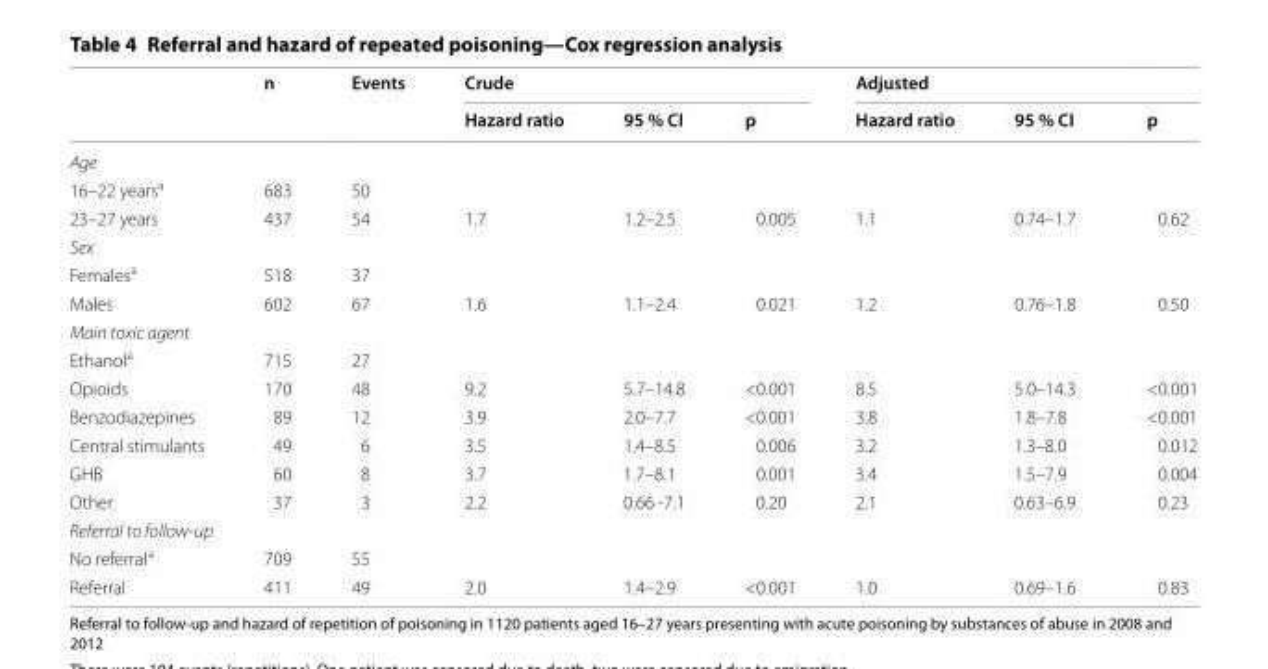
<table><thead><tr><td rowspan="2"></td><td rowspan="2">n</td><td rowspan="2">Events</td><td colspan="3">Crude</td><td colspan="3">Adjusted</td></tr><tr><td>Hazard ratio</td><td>95 % CI</td><td>p</td><td>Hazard ratio</td><td>95 % CI</td><td>p</td></tr></thead><tbody><tr><td colspan="9">Age</td></tr><tr><td>16–22 years<sup>a</sup></td><td>683</td><td>50</td><td></td><td></td><td></td><td></td><td></td><td></td></tr><tr><td>23–27 years</td><td>437</td><td>54</td><td>1.7</td><td>1.2–2.5</td><td>0.005</td><td>1.1</td><td>0.74–1.7</td><td>0.62</td></tr><tr><td colspan="9">Sex</td></tr><tr><td>Females<sup>a</sup></td><td>518</td><td>37</td><td></td><td></td><td></td><td></td><td></td><td></td></tr><tr><td>Males</td><td>602</td><td>67</td><td>1.6</td><td>1.1–2.4</td><td>0.021</td><td>1.2</td><td>0.76–1.8</td><td>0.50</td></tr><tr><td colspan="9">Main toxic agent</td></tr><tr><td>Ethanol<sup>a</sup></td><td>715</td><td>27</td><td></td><td></td><td></td><td></td><td></td><td></td></tr><tr><td>Opioids</td><td>170</td><td>48</td><td>9.2</td><td>5.7–14.8</td><td>&lt;0.001</td><td>8.5</td><td>5.0–14.3</td><td>&lt;0.001</td></tr><tr><td>Benzodiazepines</td><td>89</td><td>12</td><td>3.9</td><td>2.0–7.7</td><td>&lt;0.001</td><td>3.8</td><td>1.8–7.8</td><td>&lt;0.001</td></tr><tr><td>Central stimulants</td><td>49</td><td>6</td><td>3.5</td><td>1.4–8.5</td><td>0.006</td><td>3.2</td><td>1.3–8.0</td><td>0.012</td></tr><tr><td>GHB</td><td>60</td><td>8</td><td>3.7</td><td>1.7–8.1</td><td>0.001</td><td>3.4</td><td>1.5–7.9</td><td>0.004</td></tr><tr><td>Other</td><td>37</td><td>3</td><td>2.2</td><td>0.66 -7.1</td><td>0.20</td><td>2.1</td><td>0.63–6.9</td><td>0.23</td></tr><tr><td colspan="9">Referral to follow-up</td></tr><tr><td>No referral<sup>a</sup></td><td>709</td><td>55</td><td></td><td></td><td></td><td></td><td></td><td></td></tr><tr><td>Referral</td><td>411</td><td>49</td><td>2.0</td><td>1.4–2.9</td><td>&lt;0.001</td><td>1.0</td><td>0.69–1.6</td><td>0.83</td></tr></tbody></table>